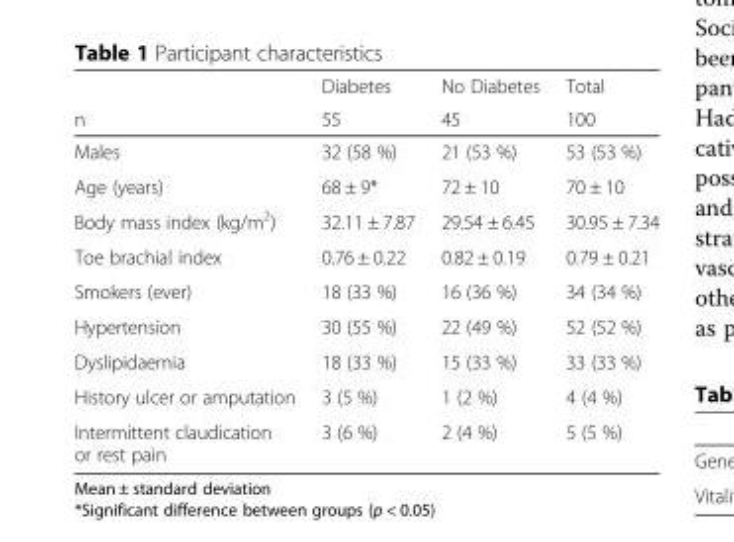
<table><thead><tr><td rowspan="2">n</td><td rowspan="2">Diabetes 55</td><td rowspan="2">No Diabetes 45</td><td rowspan="2">Total 100</td></tr><tr></tr></thead><tbody><tr><td>Males</td><td>32 (58 %)</td><td>21 (53 %)</td><td>53 (53 %)</td></tr><tr><td>Age (years)</td><td>68 ± 9*</td><td>72 ± 10</td><td>70 ± 10</td></tr><tr><td>Body mass index (kg/m<sup>2</sup>)</td><td>32.11 ± 7.87</td><td>29.54 ± 6.45</td><td>30.95 ± 7.34</td></tr><tr><td>Toe brachial index</td><td>0.76 ± 0.22</td><td>0.82 ± 0.19</td><td>0.79 ± 0.21</td></tr><tr><td>Smokers (ever)</td><td>18 (33 %)</td><td>16 (36 %)</td><td>34 (34 %)</td></tr><tr><td>Hypertension</td><td>30 (55 %)</td><td>22 (49 %)</td><td>52 (52 %)</td></tr><tr><td>Dyslipidaemia</td><td>18 (33 %)</td><td>15 (33 %)</td><td>33 (33 %)</td></tr><tr><td>History ulcer or amputation</td><td>3 (5 %)</td><td>1 (2 %)</td><td>4 (4 %)</td></tr><tr><td>Intermittent claudication or rest pain</td><td>3 (6 %)</td><td>2 (4 %)</td><td>5 (5 %)</td></tr></tbody></table>